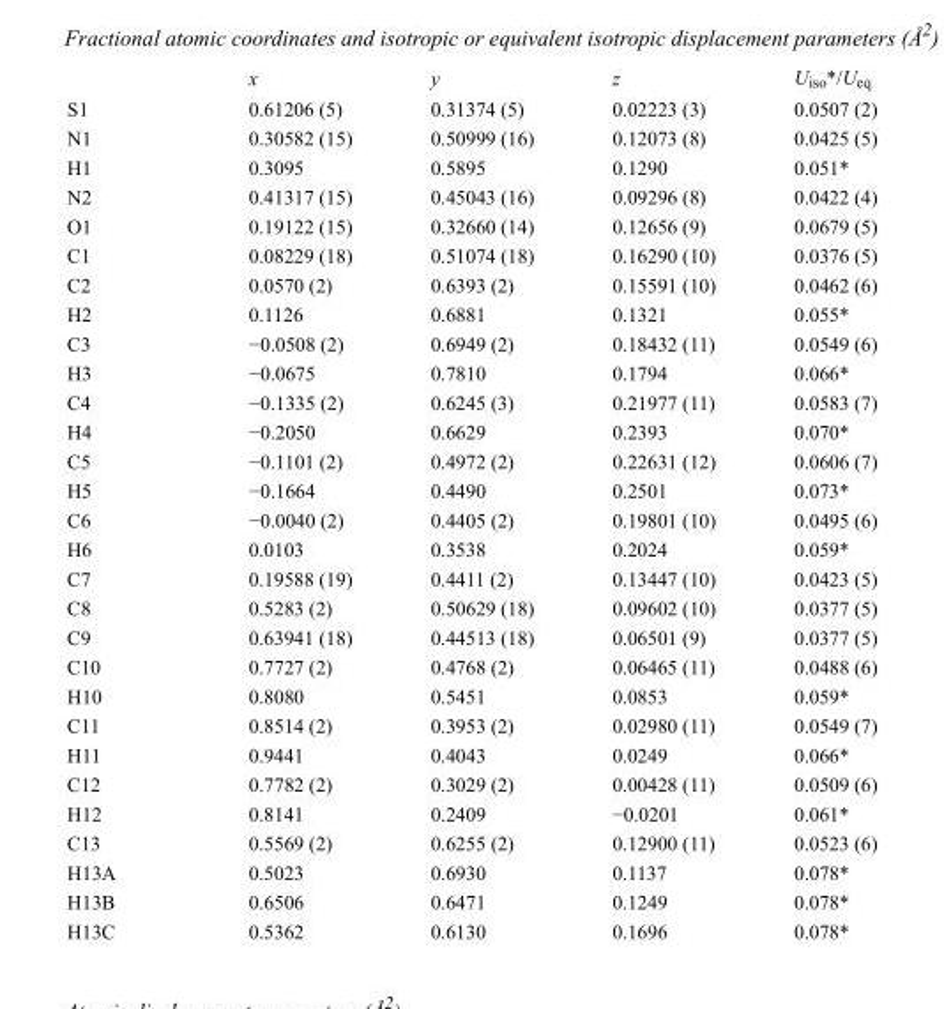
<table><thead><tr><td></td><td>x</td><td>y</td><td>z</td><td>U<sub>iso</sub>*/U<sub>eq</sub></td></tr></thead><tbody><tr><td>S1</td><td>0.61206 (5)</td><td>0.31374 (5)</td><td>0.02223 (3)</td><td>0.0507 (2)</td></tr><tr><td>N1</td><td>0.30582 (15)</td><td>0.50999 (16)</td><td>0.12073 (8)</td><td>0.0425 (5)</td></tr><tr><td>H1</td><td>0.3095</td><td>0.5895</td><td>0.1290</td><td>0.051*</td></tr><tr><td>N2</td><td>0.41317 (15)</td><td>0.45043 (16)</td><td>0.09296 (8)</td><td>0.0422 (4)</td></tr><tr><td>O1</td><td>0.19122 (15)</td><td>0.32660 (14)</td><td>0.12656 (9)</td><td>0.0679 (5)</td></tr><tr><td>C1</td><td>0.08229 (18)</td><td>0.51074 (18)</td><td>0.16290 (10)</td><td>0.0376 (5)</td></tr><tr><td>C2</td><td>0.0570 (2)</td><td>0.6393 (2)</td><td>0.15591 (10)</td><td>0.0462 (6)</td></tr><tr><td>H2</td><td>0.1126</td><td>0.6881</td><td>0.1321</td><td>0.055*</td></tr><tr><td>C3</td><td>−0.0508 (2)</td><td>0.6949 (2)</td><td>0.18432 (11)</td><td>0.0549 (6)</td></tr><tr><td>H3</td><td>−0.0675</td><td>0.7810</td><td>0.1794</td><td>0.066*</td></tr><tr><td>C4</td><td>−0.1335 (2)</td><td>0.6245 (3)</td><td>0.21977 (11)</td><td>0.0583 (7)</td></tr><tr><td>H4</td><td>−0.2050</td><td>0.6629</td><td>0.2393</td><td>0.070*</td></tr><tr><td>C5</td><td>−0.1101 (2)</td><td>0.4972 (2)</td><td>0.22631 (12)</td><td>0.0606 (7)</td></tr><tr><td>H5</td><td>−0.1664</td><td>0.4490</td><td>0.2501</td><td>0.073*</td></tr><tr><td>C6</td><td>−0.0040 (2)</td><td>0.4405 (2)</td><td>0.19801 (10)</td><td>0.0495 (6)</td></tr><tr><td>H6</td><td>0.0103</td><td>0.3538</td><td>0.2024</td><td>0.059*</td></tr><tr><td>C7</td><td>0.19588 (19)</td><td>0.4411 (2)</td><td>0.13447 (10)</td><td>0.0423 (5)</td></tr><tr><td>C8</td><td>0.5283 (2)</td><td>0.50629 (18)</td><td>0.09602 (10)</td><td>0.0377 (5)</td></tr><tr><td>C9</td><td>0.63941 (18)</td><td>0.44513 (18)</td><td>0.06501 (9)</td><td>0.0377 (5)</td></tr><tr><td>C10</td><td>0.7727 (2)</td><td>0.4768 (2)</td><td>0.06465 (11)</td><td>0.0488 (6)</td></tr><tr><td>H10</td><td>0.8080</td><td>0.5451</td><td>0.0853</td><td>0.059*</td></tr><tr><td>C11</td><td>0.8514 (2)</td><td>0.3953 (2)</td><td>0.02980 (11)</td><td>0.0549 (7)</td></tr><tr><td>H11</td><td>0.9441</td><td>0.4043</td><td>0.0249</td><td>0.066*</td></tr><tr><td>C12</td><td>0.7782 (2)</td><td>0.3029 (2)</td><td>0.00428 (11)</td><td>0.0509 (6)</td></tr><tr><td>H12</td><td>0.8141</td><td>0.2409</td><td>−0.0201</td><td>0.061*</td></tr><tr><td>C13</td><td>0.5569 (2)</td><td>0.6255 (2)</td><td>0.12900 (11)</td><td>0.0523 (6)</td></tr><tr><td>H13A</td><td>0.5023</td><td>0.6930</td><td>0.1137</td><td>0.078*</td></tr><tr><td>H13B</td><td>0.6506</td><td>0.6471</td><td>0.1249</td><td>0.078*</td></tr><tr><td>H13C</td><td>0.5362</td><td>0.6130</td><td>0.1696</td><td>0.078*</td></tr></tbody></table>